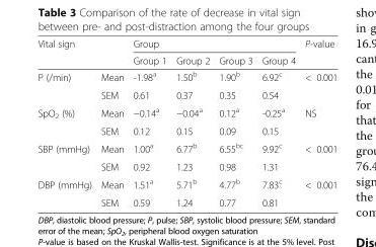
<table><thead><tr><td rowspan="2">Vital sign</td><td rowspan="2"></td><td colspan="4">Group</td><td rowspan="2">P-value</td></tr><tr><td>Group 1</td><td>Group 2</td><td>Group 3</td><td>Group 4</td></tr></thead><tbody><tr><td rowspan="2">P (/min)</td><td>Mean</td><td>-1.98<sup>a</sup></td><td>1.50<sup>b</sup></td><td>1.90<sup>b</sup></td><td>6.92<sup>c</sup></td><td rowspan="2">&lt; 0.001</td></tr><tr><td>SEM</td><td>0.61</td><td>0.37</td><td>0.35</td><td>0.54</td></tr><tr><td rowspan="2">SpO<sub>2</sub> (%)</td><td>Mean</td><td>−0.14<sup>a</sup></td><td>−0.04<sup>a</sup></td><td>0.12<sup>a</sup></td><td>-0.25<sup>a</sup></td><td rowspan="2">NS</td></tr><tr><td>SEM</td><td>0.12</td><td>0.15</td><td>0.09</td><td>0.15</td></tr><tr><td rowspan="2">SBP (mmHg)</td><td>Mean</td><td>1.00<sup>a</sup></td><td>6.77<sup>b</sup></td><td>6.55<sup>bc</sup></td><td>9.92<sup>c</sup></td><td rowspan="2">&lt; 0.001</td></tr><tr><td>SEM</td><td>0.92</td><td>1.23</td><td>0.98</td><td>1.31</td></tr><tr><td rowspan="2">DBP (mmHg)</td><td>Mean</td><td>1.51<sup>a</sup></td><td>5.71<sup>b</sup></td><td>4.77<sup>b</sup></td><td>7.83<sup>c</sup></td><td rowspan="2">&lt; 0.001</td></tr><tr><td>SEM</td><td>0.59</td><td>1.24</td><td>0.77</td><td>0.81</td></tr></tbody></table>